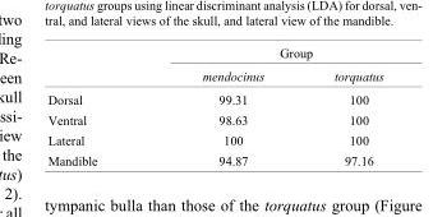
<table><thead><tr><td rowspan="2"></td><td colspan="2">Group</td></tr><tr><td>mendocinus</td><td>torquatus</td></tr></thead><tbody><tr><td>Dorsal</td><td>99.31</td><td>100</td></tr><tr><td>Ventral</td><td>98.63</td><td>100</td></tr><tr><td>Lateral</td><td>100</td><td>100</td></tr><tr><td>Mandible</td><td>94.87</td><td>97.16</td></tr></tbody></table>